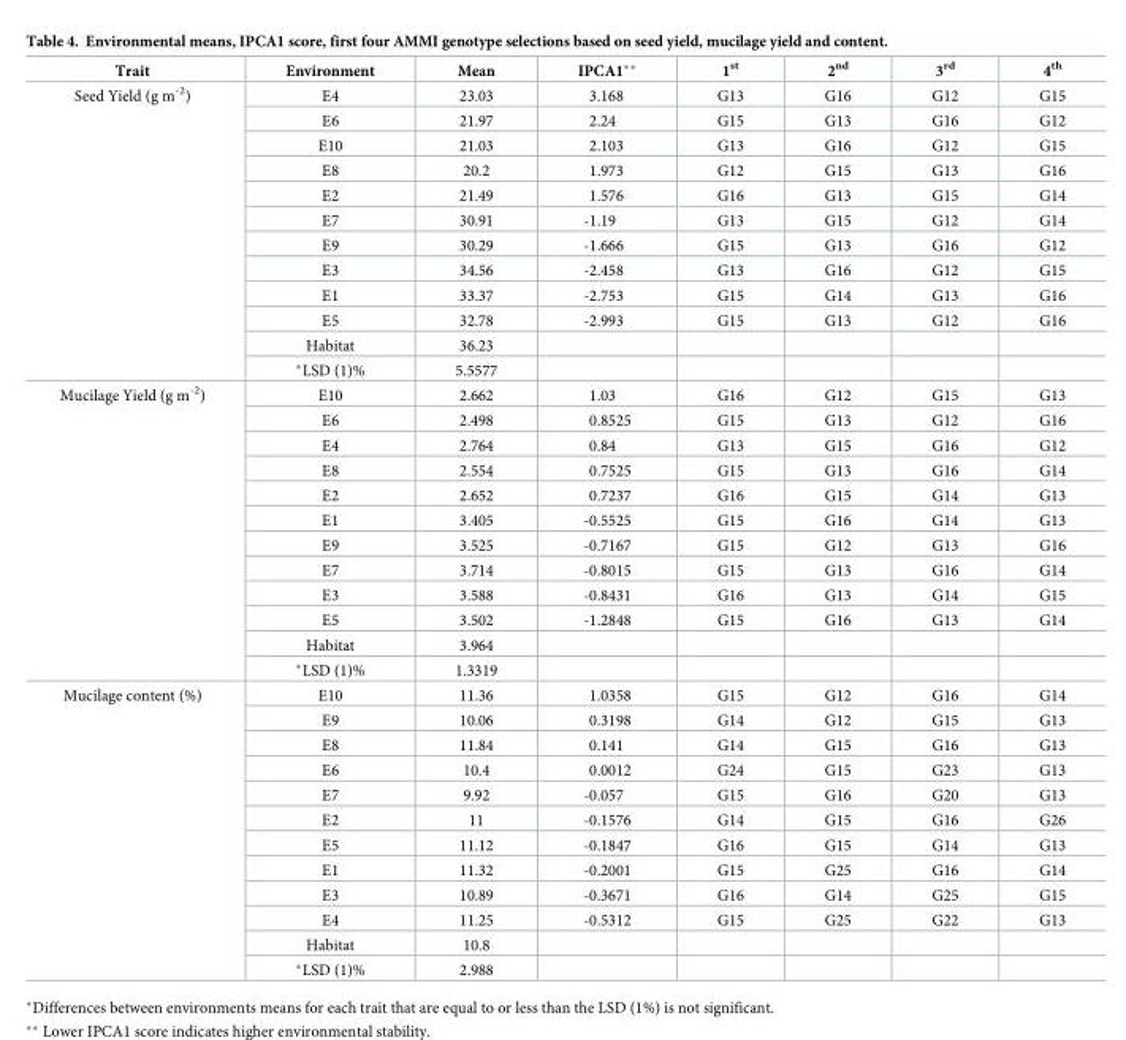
<table><thead><tr><td>Trait</td><td>Environment</td><td>Mean</td><td>IPCA1**</td><td>1<sup>st</sup></td><td>2<sup>nd</sup></td><td>3<sup>rd</sup></td><td>4<sup>th</sup></td></tr></thead><tbody><tr><td rowspan="12">Seed Yield (g m<sup>-2</sup>)</td><td>E4</td><td>23.03</td><td>3.168</td><td>G13</td><td>G16</td><td>G12</td><td>G15</td></tr><tr><td>E6</td><td>21.97</td><td>2.24</td><td>G15</td><td>G13</td><td>G16</td><td>G12</td></tr><tr><td>E10</td><td>21.03</td><td>2.103</td><td>G13</td><td>G16</td><td>G12</td><td>G15</td></tr><tr><td>E8</td><td>20.2</td><td>1.973</td><td>G12</td><td>G15</td><td>G13</td><td>G16</td></tr><tr><td>E2</td><td>21.49</td><td>1.576</td><td>G16</td><td>G13</td><td>G15</td><td>G14</td></tr><tr><td>E7</td><td>30.91</td><td>-1.19</td><td>G13</td><td>G15</td><td>G12</td><td>G14</td></tr><tr><td>E9</td><td>30.29</td><td>-1.666</td><td>G15</td><td>G13</td><td>G16</td><td>G12</td></tr><tr><td>E3</td><td>34.56</td><td>-2.458</td><td>G13</td><td>G16</td><td>G12</td><td>G15</td></tr><tr><td>E1</td><td>33.37</td><td>-2.753</td><td>G15</td><td>G14</td><td>G13</td><td>G16</td></tr><tr><td>E5</td><td>32.78</td><td>-2.993</td><td>G15</td><td>G13</td><td>G12</td><td>G16</td></tr><tr><td>Habitat</td><td>36.23</td><td></td><td></td><td></td><td></td><td></td></tr><tr><td>*LSD (1)%</td><td>5.5577</td><td></td><td></td><td></td><td></td><td></td></tr><tr><td rowspan="12">Mucilage Yield (g m<sup>-2</sup>)</td><td>E10</td><td>2.662</td><td>1.03</td><td>G16</td><td>G12</td><td>G15</td><td>G13</td></tr><tr><td>E6</td><td>2.498</td><td>0.8525</td><td>G15</td><td>G13</td><td>G12</td><td>G16</td></tr><tr><td>E4</td><td>2.764</td><td>0.84</td><td>G13</td><td>G15</td><td>G16</td><td>G12</td></tr><tr><td>E8</td><td>2.554</td><td>0.7525</td><td>G15</td><td>G13</td><td>G16</td><td>G14</td></tr><tr><td>E2</td><td>2.652</td><td>0.7237</td><td>G16</td><td>G15</td><td>G14</td><td>G13</td></tr><tr><td>E1</td><td>3.405</td><td>-0.5525</td><td>G15</td><td>G16</td><td>G14</td><td>G13</td></tr><tr><td>E9</td><td>3.525</td><td>-0.7167</td><td>G15</td><td>G12</td><td>G13</td><td>G16</td></tr><tr><td>E7</td><td>3.714</td><td>-0.8015</td><td>G15</td><td>G13</td><td>G16</td><td>G14</td></tr><tr><td>E3</td><td>3.588</td><td>-0.8431</td><td>G16</td><td>G13</td><td>G14</td><td>G15</td></tr><tr><td>E5</td><td>3.502</td><td>-1.2848</td><td>G15</td><td>G16</td><td>G13</td><td>G14</td></tr><tr><td>Habitat</td><td>3.964</td><td></td><td></td><td></td><td></td><td></td></tr><tr><td>*LSD (1)%</td><td>1.3319</td><td></td><td></td><td></td><td></td><td></td></tr><tr><td rowspan="12">Mucilage content (%)</td><td>E10</td><td>11.36</td><td>1.0358</td><td>G15</td><td>G12</td><td>G16</td><td>G14</td></tr><tr><td>E9</td><td>10.06</td><td>0.3198</td><td>G14</td><td>G12</td><td>G15</td><td>G13</td></tr><tr><td>E8</td><td>11.84</td><td>0.141</td><td>G14</td><td>G15</td><td>G16</td><td>G13</td></tr><tr><td>E6</td><td>10.4</td><td>0.0012</td><td>G24</td><td>G15</td><td>G23</td><td>G13</td></tr><tr><td>E7</td><td>9.92</td><td>-0.057</td><td>G15</td><td>G16</td><td>G20</td><td>G13</td></tr><tr><td>E2</td><td>11</td><td>-0.1576</td><td>G14</td><td>G15</td><td>G16</td><td>G26</td></tr><tr><td>E5</td><td>11.12</td><td>-0.1847</td><td>G16</td><td>G15</td><td>G14</td><td>G13</td></tr><tr><td>E1</td><td>11.32</td><td>-0.2001</td><td>G15</td><td>G25</td><td>G16</td><td>G14</td></tr><tr><td>E3</td><td>10.89</td><td>-0.3671</td><td>G16</td><td>G14</td><td>G25</td><td>G15</td></tr><tr><td>E4</td><td>11.25</td><td>-0.5312</td><td>G15</td><td>G25</td><td>G22</td><td>G13</td></tr><tr><td>Habitat</td><td>10.8</td><td></td><td></td><td></td><td></td><td></td></tr><tr><td>*LSD (1)%</td><td>2.988</td><td></td><td></td><td></td><td></td><td></td></tr></tbody></table>